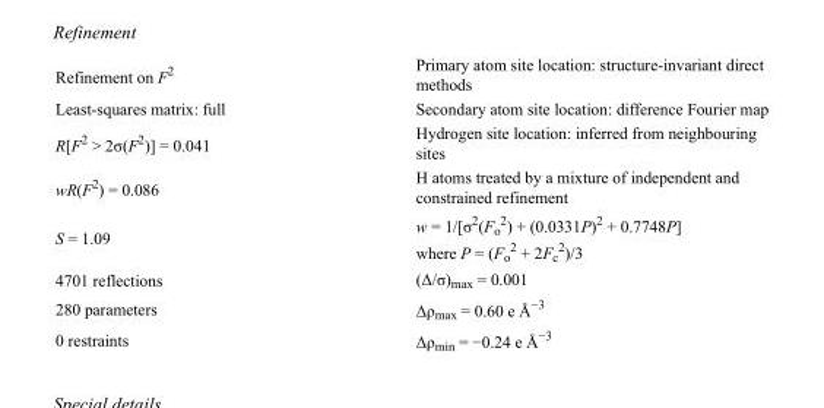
<table><tbody><tr><td>Refinement on F<sup>2</sup></td><td>Primary atom site location: structure-invariant direct methods</td></tr><tr><td>Least-squares matrix: full</td><td>Secondary atom site location: difference Fourier map</td></tr><tr><td>R[F<sup>2</sup> &gt; 2σ(F<sup>2</sup>)] = 0.041</td><td>Hydrogen site location: inferred from neighbouring sites</td></tr><tr><td>wR(F<sup>2</sup>) = 0.086</td><td>H atoms treated by a mixture of independent and constrained refinement</td></tr><tr><td>S = 1.09</td><td>w = 1/[σ<sup>2</sup>(F<sub>o</sub> <sup>2</sup>) + (0.0331P)<sup>2</sup> + 0.7748P] where P = (F<sub>o</sub> <sup>2</sup> + 2F<sub>c</sub> <sup>2</sup>)/3</td></tr><tr><td>4701 reflections</td><td>(Δ/σ)<sub>max</sub> = 0.001</td></tr><tr><td>280 parameters</td><td>Δρ<sub>max</sub> = 0.60 e Å<sup>−3</sup></td></tr><tr><td>0 restraints</td><td>Δρ<sub>min</sub> = −0.24 e Å<sup>−3</sup></td></tr></tbody></table>